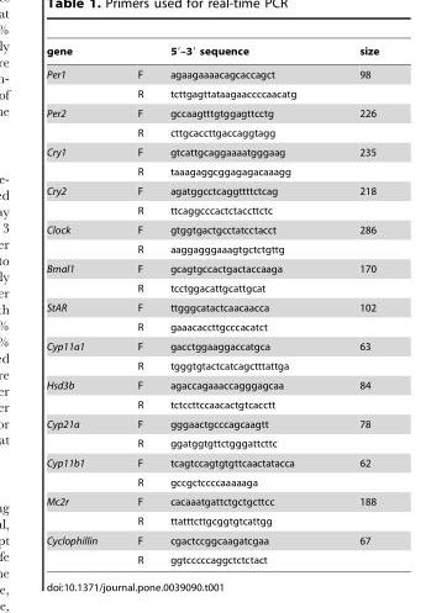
<table><thead><tr><td>gene</td><td></td><td>5′–3′ sequence</td><td>size</td></tr></thead><tbody><tr><td rowspan="2">Per1</td><td>F</td><td>agaagaaaacagcaccagct</td><td>98</td></tr><tr><td>R</td><td>tcttgagttataagaaccccaacatg</td><td></td></tr><tr><td rowspan="2">Per2</td><td>F</td><td>gccaagtttgtggagttcctg</td><td>226</td></tr><tr><td>R</td><td>cttgcaccttgaccaggtagg</td><td></td></tr><tr><td rowspan="2">Cry1</td><td>F</td><td>gtcattgcaggaaaatgggaag</td><td>235</td></tr><tr><td>R</td><td>taaagaggcggagagacaaagg</td><td></td></tr><tr><td rowspan="2">Cry2</td><td>F</td><td>agatggcctcaggttttctcag</td><td>218</td></tr><tr><td>R</td><td>ttcaggcccactctaccttctc</td><td></td></tr><tr><td rowspan="2">Clock</td><td>F</td><td>gtggtgactgcctatcctacct</td><td>286</td></tr><tr><td>R</td><td>aaggagggaaagtgctctgttg</td><td></td></tr><tr><td rowspan="2">Bmal1</td><td>F</td><td>gcagtgccactgactaccaaga</td><td>170</td></tr><tr><td>R</td><td>tcctggacattgcattgcat</td><td></td></tr><tr><td rowspan="2">StAR</td><td>F</td><td>ttgggcatactcaacaacca</td><td>102</td></tr><tr><td>R</td><td>gaaacaccttgcccacatct</td><td></td></tr><tr><td rowspan="2">Cyp11a1</td><td>F</td><td>gacctggaaggaccatgca</td><td>63</td></tr><tr><td>R</td><td>tgggtgtactcatcagctttattga</td><td></td></tr><tr><td rowspan="2">Hsd3b</td><td>F</td><td>agaccagaaaccagggagcaa</td><td>84</td></tr><tr><td>R</td><td>tctccttccaacactgtcacctt</td><td></td></tr><tr><td rowspan="2">Cyp21a</td><td>F</td><td>gggaactgcccagcaagtt</td><td>78</td></tr><tr><td>R</td><td>ggatggtgttctgggattcttc</td><td></td></tr><tr><td rowspan="2">Cyp11b1</td><td>F</td><td>tcagtccagtgtgttcaactatacca</td><td>62</td></tr><tr><td>R</td><td>gccgctccccaaaaaga</td><td></td></tr><tr><td rowspan="2">Mc2r</td><td>F</td><td>cacaaatgattctgctgcttcc</td><td>188</td></tr><tr><td>R</td><td>ttatttcttgcggtgtcattgg</td><td></td></tr><tr><td rowspan="2">Cyclophillin</td><td>F</td><td>cgactccggcaagatcgaa</td><td>67</td></tr><tr><td>R</td><td>ggtcccccaggctctctact</td><td></td></tr></tbody></table>